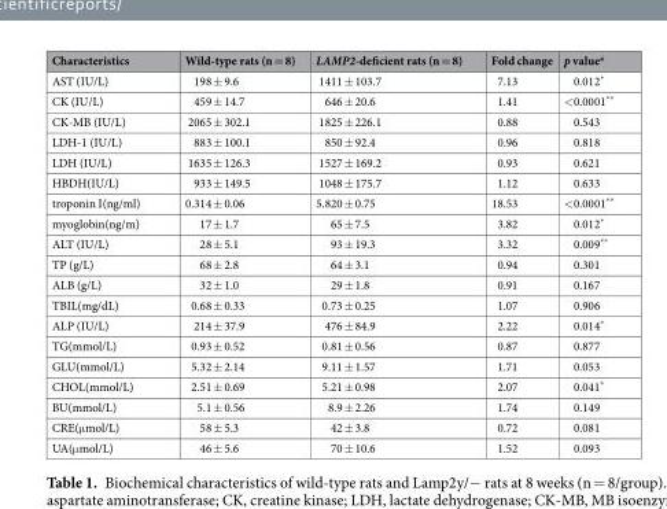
<table><thead><tr><td>Characteristics</td><td>Wild-type rats (n = 8)</td><td>LAMP2-deficient rats (n = 8)</td><td>Fold change</td><td>p value<sup>a</sup></td></tr></thead><tbody><tr><td>AST (IU/L)</td><td>198 ± 9.6</td><td>1411 ± 103.7</td><td>7.13</td><td>0.012*</td></tr><tr><td>CK (IU/L)</td><td>459 ± 14.7</td><td>646 ± 20.6</td><td>1.41</td><td>&lt;0.0001**</td></tr><tr><td>CK-MB (IU/L)</td><td>2065 ± 302.1</td><td>1825 ± 226.1</td><td>0.88</td><td>0.543</td></tr><tr><td>LDH-1 (IU/L)</td><td>883 ± 100.1</td><td>850 ± 92.4</td><td>0.96</td><td>0.818</td></tr><tr><td>LDH (IU/L)</td><td>1635 ± 126.3</td><td>1527 ± 169.2</td><td>0.93</td><td>0.621</td></tr><tr><td>HBDH(IU/L)</td><td>933 ± 149.5</td><td>1048 ± 175.7</td><td>1.12</td><td>0.633</td></tr><tr><td>troponin I(ng/ml)</td><td>0.314 ± 0.06</td><td>5.820 ± 0.75</td><td>18.53</td><td>&lt;0.0001**</td></tr><tr><td>myoglobin(ng/m)</td><td>17 ± 1.7</td><td>65 ± 7.5</td><td>3.82</td><td>0.012*</td></tr><tr><td>ALT (IU/L)</td><td>28 ± 5.1</td><td>93 ± 19.3</td><td>3.32</td><td>0.009**</td></tr><tr><td>TP (g/L)</td><td>68 ± 2.8</td><td>64 ± 3.1</td><td>0.94</td><td>0.301</td></tr><tr><td>ALB (g/L)</td><td>32 ± 1.0</td><td>29 ± 1.8</td><td>0.91</td><td>0.167</td></tr><tr><td>TBIL(mg/dL)</td><td>0.68 ± 0.33</td><td>0.73 ± 0.25</td><td>1.07</td><td>0.906</td></tr><tr><td>ALP (IU/L)</td><td>214 ± 37.9</td><td>476 ± 84.9</td><td>2.22</td><td>0.014*</td></tr><tr><td>TG(mmol/L)</td><td>0.93 ± 0.52</td><td>0.81 ± 0.56</td><td>0.87</td><td>0.877</td></tr><tr><td>GLU(mmol/L)</td><td>5.32 ± 2.14</td><td>9.11 ± 1.57</td><td>1.71</td><td>0.053</td></tr><tr><td>CHOL(mmol/L)</td><td>2.51 ± 0.69</td><td>5.21 ± 0.98</td><td>2.07</td><td>0.041*</td></tr><tr><td>BU(mmol/L)</td><td>5.1 ± 0.56</td><td>8.9 ± 2.26</td><td>1.74</td><td>0.149</td></tr><tr><td>CRE(μmol/L)</td><td>58 ± 5.3</td><td>42 ± 3.8</td><td>0.72</td><td>0.081</td></tr><tr><td>UA(μmol/L)</td><td>46 ± 5.6</td><td>70 ± 10.6</td><td>1.52</td><td>0.093</td></tr></tbody></table>